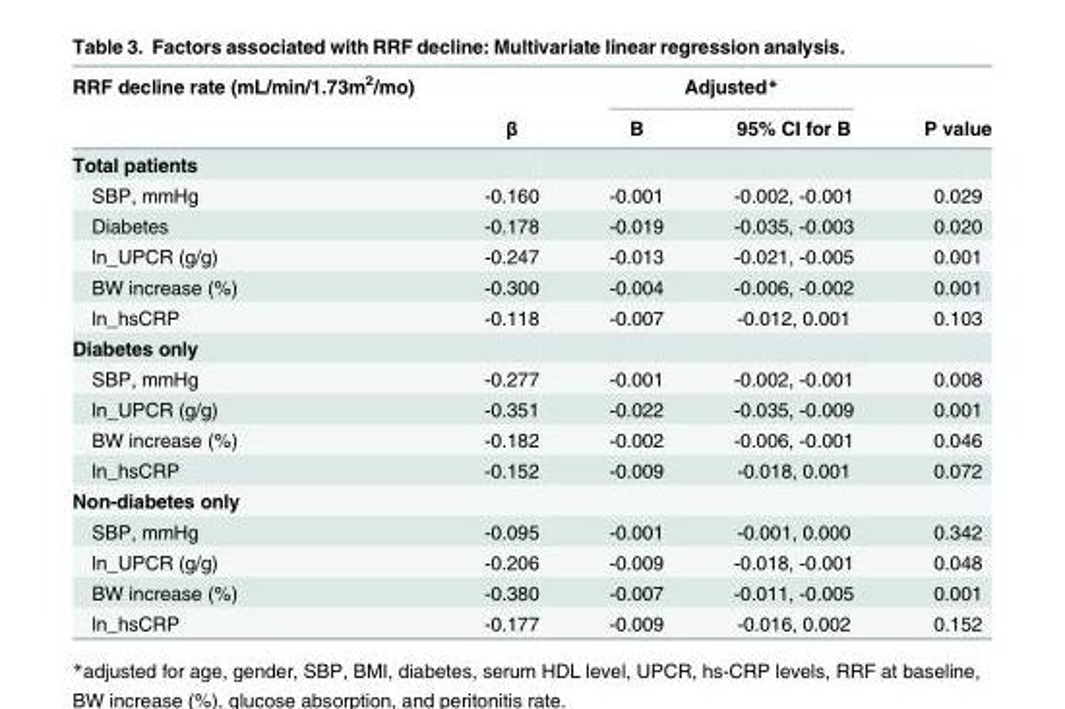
<table><thead><tr><td rowspan="2">RRF decline rate (mL/min/1.73m<sup>2</sup>/mo)</td><td rowspan="2">β</td><td colspan="2">Adjusted*</td><td rowspan="2">P value</td></tr><tr><td>B</td><td>95% CI for B</td></tr></thead><tbody><tr><td colspan="5">Total patients</td></tr><tr><td>SBP, mmHg</td><td>-0.160</td><td>-0.001</td><td>-0.002, -0.001</td><td>0.029</td></tr><tr><td>Diabetes</td><td>-0.178</td><td>-0.019</td><td>-0.035, -0.003</td><td>0.020</td></tr><tr><td>ln_UPCR (g/g)</td><td>-0.247</td><td>-0.013</td><td>-0.021, -0.005</td><td>0.001</td></tr><tr><td>BW increase (%)</td><td>-0.300</td><td>-0.004</td><td>-0.006, -0.002</td><td>0.001</td></tr><tr><td>ln_hsCRP</td><td>-0.118</td><td>-0.007</td><td>-0.012, 0.001</td><td>0.103</td></tr><tr><td colspan="5">Diabetes only</td></tr><tr><td>SBP, mmHg</td><td>-0.277</td><td>-0.001</td><td>-0.002, -0.001</td><td>0.008</td></tr><tr><td>ln_UPCR (g/g)</td><td>-0.351</td><td>-0.022</td><td>-0.035, -0.009</td><td>0.001</td></tr><tr><td>BW increase (%)</td><td>-0.182</td><td>-0.002</td><td>-0.006, -0.001</td><td>0.046</td></tr><tr><td>ln_hsCRP</td><td>-0.152</td><td>-0.009</td><td>-0.018, 0.001</td><td>0.072</td></tr><tr><td colspan="5">Non-diabetes only</td></tr><tr><td>SBP, mmHg</td><td>-0.095</td><td>-0.001</td><td>-0.001, 0.000</td><td>0.342</td></tr><tr><td>ln_UPCR (g/g)</td><td>-0.206</td><td>-0.009</td><td>-0.018, -0.001</td><td>0.048</td></tr><tr><td>BW increase (%)</td><td>-0.380</td><td>-0.007</td><td>-0.011, -0.005</td><td>0.001</td></tr><tr><td>ln_hsCRP</td><td>-0.177</td><td>-0.009</td><td>-0.016, 0.002</td><td>0.152</td></tr></tbody></table>